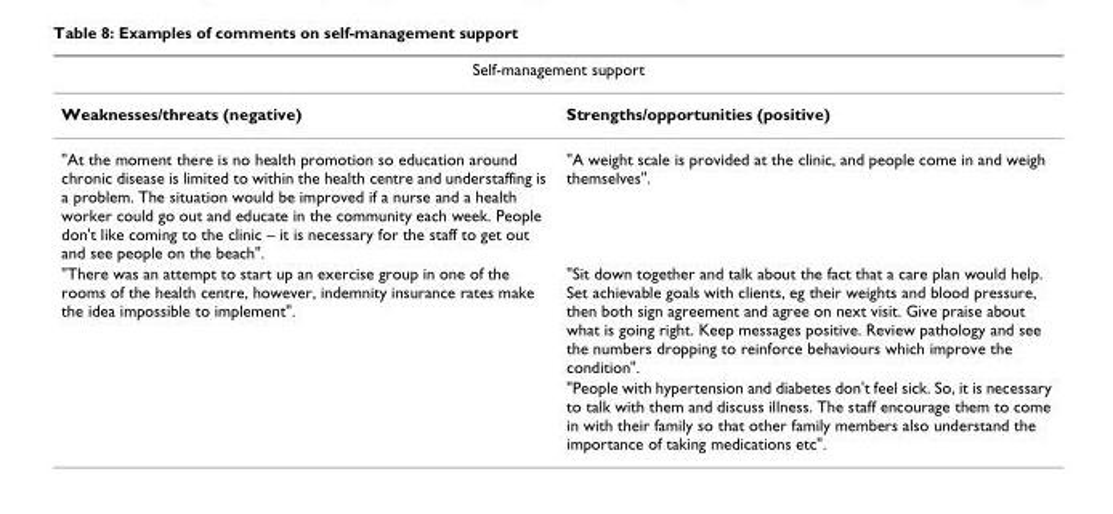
<table><thead><tr><td colspan="2">Self-management support</td></tr><tr><td>Weaknesses/threats (negative)</td><td>Strengths/opportunities (positive)</td></tr></thead><tbody><tr><td>&quot;At the moment there is no health promotion so education around chronic disease is limited to within the health centre and understaffing is a problem. The situation would be improved if a nurse and a health worker could go out and educate in the community each week. People don&#x27;t like coming to the clinic – it is necessary for the staff to get out and see people on the beach&quot;.</td><td>&quot;A weight scale is provided at the clinic, and people come in and weigh themselves&quot;.</td></tr><tr><td rowspan="2">&quot;There was an attempt to start up an exercise group in one of the rooms of the health centre, however, indemnity insurance rates make the idea impossible to implement&quot;.</td><td>&quot;Sit down together and talk about the fact that a care plan would help. Set achievable goals with clients, eg their weights and blood pressure, then both sign agreement and agree on next visit. Give praise about what is going right. Keep messages positive. Review pathology and see the numbers dropping to reinforce behaviours which improve the condition&quot;.</td></tr><tr><td>&quot;People with hypertension and diabetes don&#x27;t feel sick. So, it is necessary to talk with them and discuss illness. The staff encourage them to come in with their family so that other family members also understand the importance of taking medications etc&quot;.</td></tr></tbody></table>